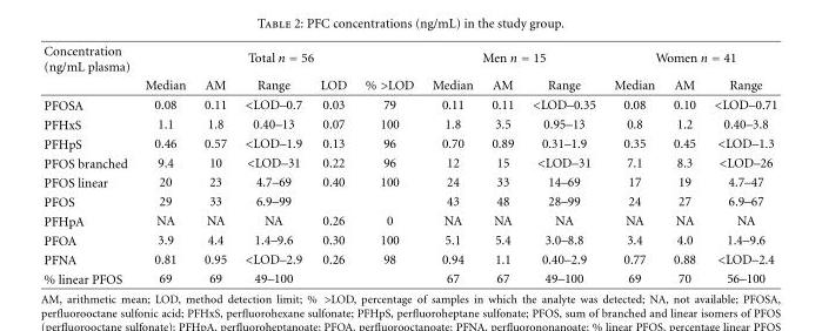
<table><thead><tr><td rowspan="2">Concentration (ng/mL plasma)</td><td colspan="5">Total n = 56</td><td colspan="3">Men n = 15</td><td colspan="3">Women n = 41</td></tr><tr><td>Median</td><td>AM</td><td>Range</td><td>LOD</td><td>% &gt;LOD</td><td>Median</td><td>AM</td><td>Range</td><td>Median</td><td>AM</td><td>Range</td></tr></thead><tbody><tr><td>PFOSA</td><td>0.08</td><td>0.11</td><td>&lt;LOD–0.7</td><td>0.03</td><td>79</td><td>0.11</td><td>0.11</td><td>&lt;LOD–0.35</td><td>0.08</td><td>0.10</td><td>&lt;LOD–0.71</td></tr><tr><td>PFHxS</td><td>1.1</td><td>1.8</td><td>0.40–13</td><td>0.07</td><td>100</td><td>1.8</td><td>3.5</td><td>0.95–13</td><td>0.8</td><td>1.2</td><td>0.40–3.8</td></tr><tr><td>PFHpS</td><td>0.46</td><td>0.57</td><td>&lt;LOD–1.9</td><td>0.13</td><td>96</td><td>0.70</td><td>0.89</td><td>0.31–1.9</td><td>0.35</td><td>0.45</td><td>&lt;LOD–1.3</td></tr><tr><td>PFOS branched</td><td>9.4</td><td>10</td><td>&lt;LOD–31</td><td>0.22</td><td>96</td><td>12</td><td>15</td><td>&lt;LOD–31</td><td>7.1</td><td>8.3</td><td>&lt;LOD–26</td></tr><tr><td>PFOS linear</td><td>20</td><td>23</td><td>4.7–69</td><td>0.40</td><td>100</td><td>24</td><td>33</td><td>14–69</td><td>17</td><td>19</td><td>4.7–47</td></tr><tr><td>PFOS</td><td>29</td><td>33</td><td>6.9–99</td><td></td><td></td><td>43</td><td>48</td><td>28–99</td><td>24</td><td>27</td><td>6.9–67</td></tr><tr><td>PFHpA</td><td>NA</td><td>NA</td><td>NA</td><td>0.26</td><td>0</td><td>NA</td><td>NA</td><td>NA</td><td>NA</td><td>NA</td><td>NA</td></tr><tr><td>PFOA</td><td>3.9</td><td>4.4</td><td>1.4–9.6</td><td>0.30</td><td>100</td><td>5.1</td><td>5.4</td><td>3.0–8.8</td><td>3.4</td><td>4.0</td><td>1.4–9.6</td></tr><tr><td>PFNA</td><td>0.81</td><td>0.95</td><td>&lt;LOD–2.9</td><td>0.26</td><td>98</td><td>0.94</td><td>1.1</td><td>0.40–2.9</td><td>0.77</td><td>0.88</td><td>&lt;LOD–2.4</td></tr><tr><td>% linear PFOS</td><td>69</td><td>69</td><td>49–100</td><td></td><td></td><td>67</td><td>67</td><td>49–100</td><td>69</td><td>70</td><td>56–100</td></tr></tbody></table>